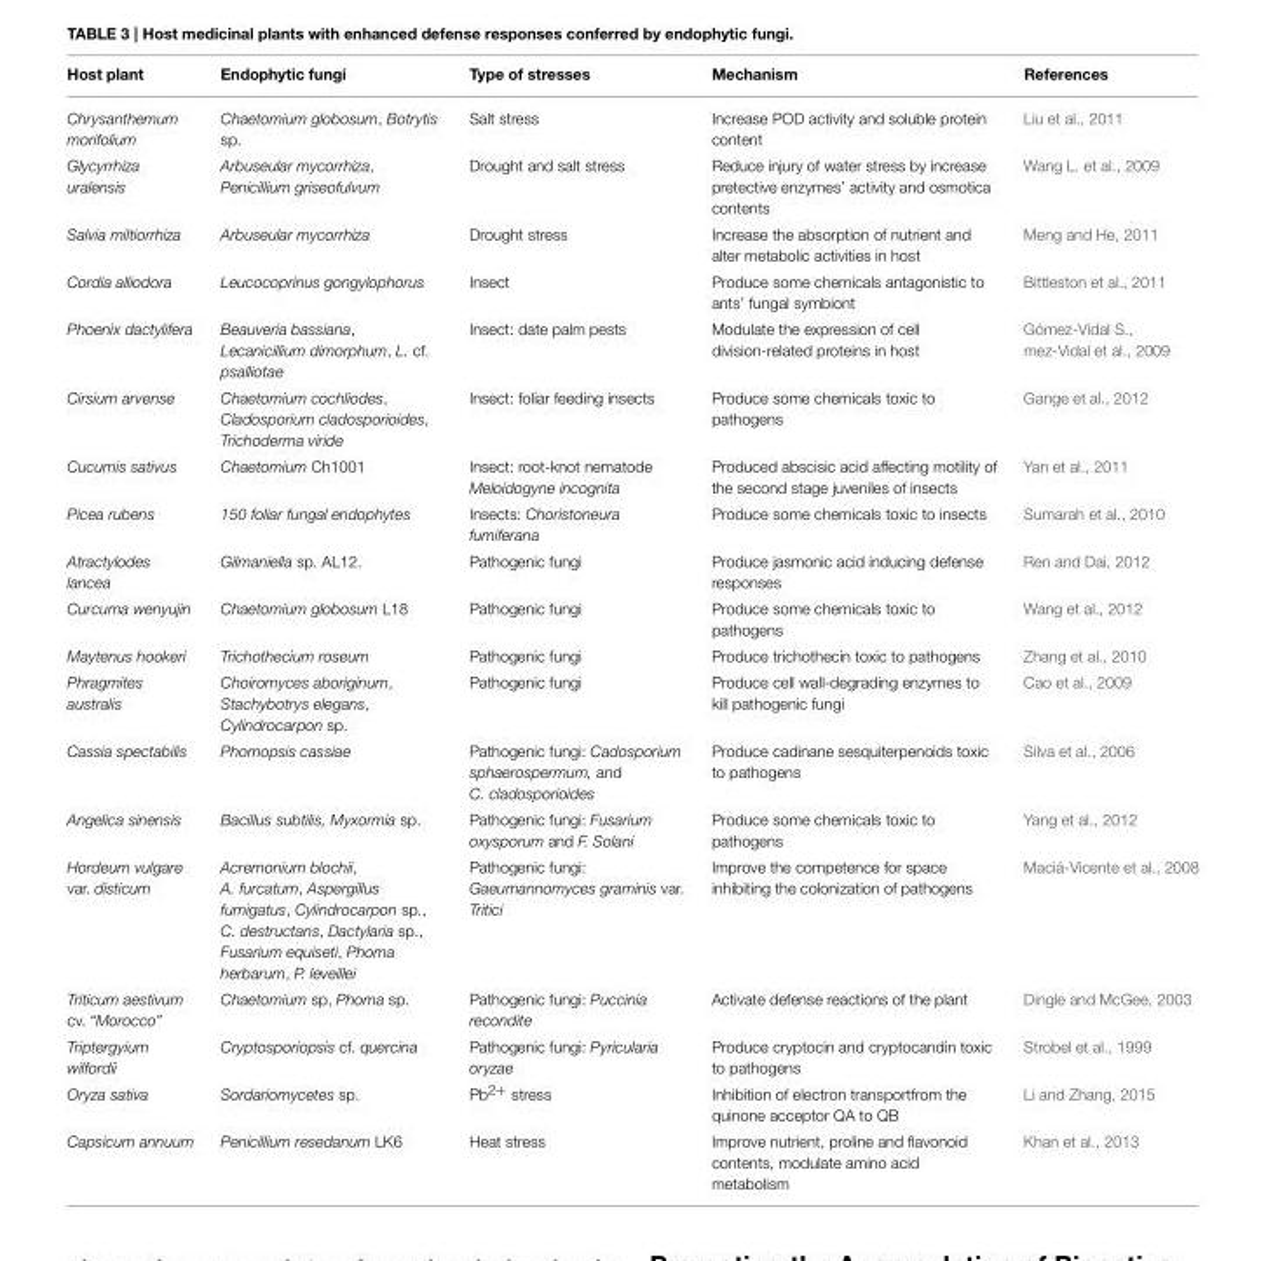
<table><thead><tr><td>Host plant</td><td>Endophytic fungi</td><td>Type of stresses</td><td>Mechanism</td><td>References</td></tr></thead><tbody><tr><td>Chrysanthemum morifolium</td><td>Chaetomium globosum, Botrytis sp.</td><td>Salt stress</td><td>Increase POD activity and soluble protein content</td><td>Liu et al., 2011</td></tr><tr><td>Glycyrrhiza uralensis</td><td>Arbuseular mycorrhiza, Penicillium griseofulvum</td><td>Drought and salt stress</td><td>Reduce injury of water stress by increase pretective enzymes’ activity and osmotica contents</td><td>Wang L. et al., 2009</td></tr><tr><td>Salvia miltiorrhiza</td><td>Arbuseular mycorrhiza</td><td>Drought stress</td><td>Increase the absorption of nutrient and alter metabolic activities in host</td><td>Meng and He, 2011</td></tr><tr><td>Cordia alliodora</td><td>Leucocoprinus gongylophorus</td><td>Insect</td><td>Produce some chemicals antagonistic to ants’ fungal symbiont</td><td>Bittleston et al., 2011</td></tr><tr><td>Phoenix dactylifera</td><td>Beauveria bassiana, Lecanicillium dimorphum, L. cf. psalliotae</td><td>Insect: date palm pests</td><td>Modulate the expression of cell division-related proteins in host</td><td>Gómez-Vidal S., mez-Vidal et al., 2009</td></tr><tr><td>Cirsium arvense</td><td>Chaetomium cochliodes, Cladosporium cladosporioides, Trichoderma viride</td><td>Insect: foliar feeding insects</td><td>Produce some chemicals toxic to pathogens</td><td>Gange et al., 2012</td></tr><tr><td>Cucumis sativus</td><td>Chaetomium Ch1001</td><td>Insect: root-knot nematode Meloidogyne incognita</td><td>Produced abscisic acid affecting motility of the second stage juveniles of insects</td><td>Yan et al., 2011</td></tr><tr><td>Picea rubens</td><td>150 foliar fungal endophytes</td><td>Insects: Choristoneura fumiferana</td><td>Produce some chemicals toxic to insects</td><td>Sumarah et al., 2010</td></tr><tr><td>Atractylodes lancea</td><td>Gilmaniella sp. AL12.</td><td>Pathogenic fungi</td><td>Produce jasmonic acid inducing defense responses</td><td>Ren and Dai, 2012</td></tr><tr><td>Curcuma wenyujin</td><td>Chaetomium globosum L18</td><td>Pathogenic fungi</td><td>Produce some chemicals toxic to pathogens</td><td>Wang et al., 2012</td></tr><tr><td>Maytenus hookeri</td><td>Trichothecium roseum</td><td>Pathogenic fungi</td><td>Produce trichothecin toxic to pathogens</td><td>Zhang et al., 2010</td></tr><tr><td>Phragmites australis</td><td>Choiromyces aboriginum, Stachybotrys elegans, Cylindrocarpon sp.</td><td>Pathogenic fungi</td><td>Produce cell wall-degrading enzymes to kill pathogenic fungi</td><td>Cao et al., 2009</td></tr><tr><td>Cassia spectabilis</td><td>Phomopsis cassiae</td><td>Pathogenic fungi: Cadosporium sphaerospermum, and C. cladosporioides</td><td>Produce cadinane sesquiterpenoids toxic to pathogens</td><td>Silva et al., 2006</td></tr><tr><td>Angelica sinensis</td><td>Bacillus subtilis, Myxormia sp.</td><td>Pathogenic fungi: Fusarium oxysporum and F. Solani</td><td>Produce some chemicals toxic to pathogens</td><td>Yang et al., 2012</td></tr><tr><td>Hordeum vulgare var. disticum</td><td>Acremonium blochii, A. furcatum, Aspergillus fumigatus, Cylindrocarpon sp., C. destructans, Dactylaria sp., Fusarium equiseti, Phoma herbarum, P. leveillei</td><td>Pathogenic fungi: Gaeumannomyces graminis var. Tritici</td><td>Improve the competence for space inhibiting the colonization of pathogens</td><td>Maciá-Vicente et al., 2008</td></tr><tr><td>Triticum aestivum cv. “Morocco”</td><td>Chaetomium sp, Phoma sp.</td><td>Pathogenic fungi: Puccinia recondite</td><td>Activate defense reactions of the plant</td><td>Dingle and McGee, 2003</td></tr><tr><td>Triptergyium wilfordii</td><td>Cryptosporiopsis cf. quercina</td><td>Pathogenic fungi: Pyricularia oryzae</td><td>Produce cryptocin and cryptocandin toxic to pathogens</td><td>Strobel et al., 1999</td></tr><tr><td>Oryza sativa</td><td>Sordariomycetes sp.</td><td>Pb<sup>2+</sup> stress</td><td>Inhibition of electron transportfrom the quinone acceptor QA to QB</td><td>Li and Zhang, 2015</td></tr><tr><td>Capsicum annuum</td><td>Penicillium resedanum LK6</td><td>Heat stress</td><td>Improve nutrient, proline and flavonoid contents, modulate amino acid metabolism</td><td>Khan et al., 2013</td></tr></tbody></table>